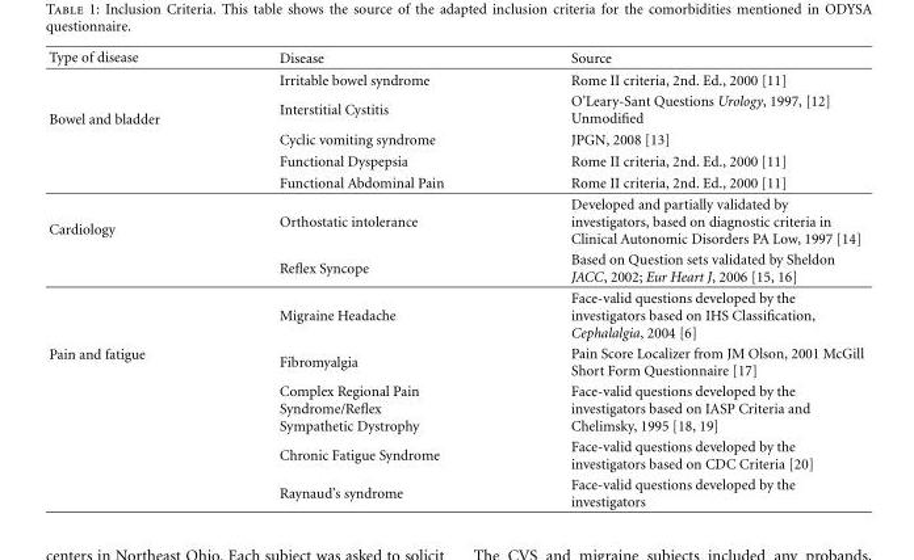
<table><thead><tr><td>Type of disease</td><td>Disease</td><td>Source</td></tr></thead><tbody><tr><td rowspan="5">Bowel and bladder</td><td>Irritable bowel syndrome</td><td>Rome II criteria, 2nd. Ed., 2000 [11]</td></tr><tr><td>Interstitial Cystitis</td><td>O’Leary-Sant Questions Urology, 1997, [12] Unmodified</td></tr><tr><td>Cyclic vomiting syndrome</td><td>JPGN, 2008 [13]</td></tr><tr><td>Functional Dyspepsia</td><td>Rome II criteria, 2nd. Ed., 2000 [11]</td></tr><tr><td>Functional Abdominal Pain</td><td>Rome II criteria, 2nd. Ed., 2000 [11]</td></tr><tr><td rowspan="2">Cardiology</td><td>Orthostatic intolerance</td><td>Developed and partially validated by investigators, based on diagnostic criteria in Clinical Autonomic Disorders PA Low, 1997 [14]</td></tr><tr><td>Reflex Syncope</td><td>Based on Question sets validated by Sheldon JACC, 2002; Eur Heart J, 2006 [15, 16]</td></tr><tr><td rowspan="5">Pain and fatigue</td><td>Migraine Headache</td><td>Face-valid questions developed by the investigators based on IHS Classification, Cephalalgia, 2004 [6]</td></tr><tr><td>Fibromyalgia</td><td>Pain Score Localizer from JM Olson, 2001 McGill Short Form Questionnaire [17]</td></tr><tr><td>Complex Regional Pain Syndrome/Reflex Sympathetic Dystrophy</td><td>Face-valid questions developed by the investigators based on IASP Criteria and Chelimsky, 1995 [18, 19]</td></tr><tr><td>Chronic Fatigue Syndrome</td><td>Face-valid questions developed by the investigators based on CDC Criteria [20]</td></tr><tr><td>Raynaud’s syndrome</td><td>Face-valid questions developed by the investigators</td></tr></tbody></table>